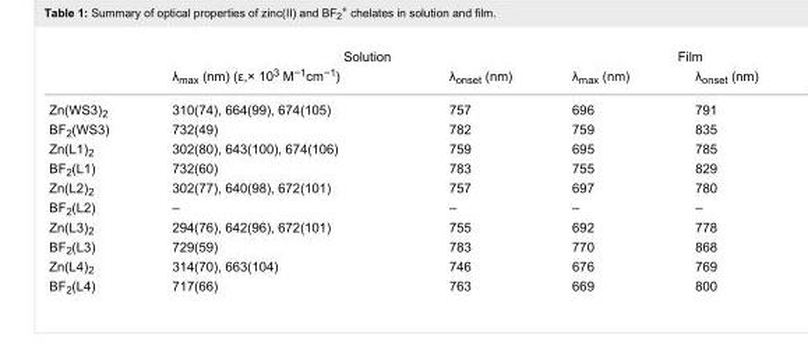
<table><thead><tr><td rowspan="2"></td><td colspan="2">Solution</td><td colspan="2">Film</td></tr><tr><td>λ<sub>max</sub> (nm) (ε,× 10<sup>3</sup> M<sup>−1</sup>cm<sup>−1</sup>)</td><td>λ<sub>onset</sub> (nm)</td><td>λ<sub>max</sub> (nm)</td><td>λ<sub>onset</sub> (nm)</td></tr></thead><tbody><tr><td>Zn(WS3)<sub>2</sub></td><td>310(74), 664(99), 674(105)</td><td>757</td><td>696</td><td>791</td></tr><tr><td>BF<sub>2</sub>(WS3)</td><td>732(49)</td><td>782</td><td>759</td><td>835</td></tr><tr><td>Zn(L1)<sub>2</sub></td><td>302(80), 643(100), 674(106)</td><td>759</td><td>695</td><td>785</td></tr><tr><td>BF<sub>2</sub>(L1)</td><td>732(60)</td><td>783</td><td>755</td><td>829</td></tr><tr><td>Zn(L2)<sub>2</sub></td><td>302(77), 640(98), 672(101)</td><td>757</td><td>697</td><td>780</td></tr><tr><td>BF<sub>2</sub>(L2)</td><td>–</td><td>–</td><td>–</td><td>–</td></tr><tr><td>Zn(L3)<sub>2</sub></td><td>294(76), 642(96), 672(101)</td><td>755</td><td>692</td><td>778</td></tr><tr><td>BF<sub>2</sub>(L3)</td><td>729(59)</td><td>783</td><td>770</td><td>868</td></tr><tr><td>Zn(L4)<sub>2</sub></td><td>314(70), 663(104)</td><td>746</td><td>676</td><td>769</td></tr><tr><td>BF<sub>2</sub>(L4)</td><td>717(66)</td><td>763</td><td>669</td><td>800</td></tr></tbody></table>